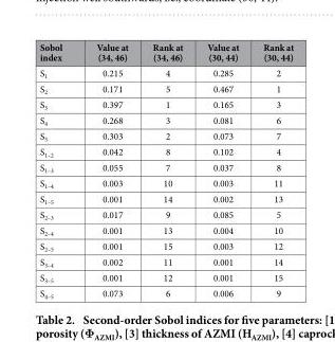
<table><thead><tr><td>Sobol index</td><td>Value at (34, 46)</td><td>Rank at (34, 46)</td><td>Value at (30, 44)</td><td>Rank at (30, 44)</td></tr></thead><tbody><tr><td>S<sub>1</sub></td><td>0.215</td><td>4</td><td>0.285</td><td>2</td></tr><tr><td>S<sub>2</sub></td><td>0.171</td><td>5</td><td>0.467</td><td>1</td></tr><tr><td>S<sub>3</sub></td><td>0.397</td><td>1</td><td>0.165</td><td>3</td></tr><tr><td>S<sub>4</sub></td><td>0.268</td><td>3</td><td>0.081</td><td>6</td></tr><tr><td>S<sub>5</sub></td><td>0.303</td><td>2</td><td>0.073</td><td>7</td></tr><tr><td>S<sub>1–2</sub></td><td>0.042</td><td>8</td><td>0.102</td><td>4</td></tr><tr><td>S<sub>1–3</sub></td><td>0.055</td><td>7</td><td>0.037</td><td>8</td></tr><tr><td>S<sub>1–4</sub></td><td>0.003</td><td>10</td><td>0.003</td><td>11</td></tr><tr><td>S<sub>1–5</sub></td><td>0.001</td><td>14</td><td>0.002</td><td>13</td></tr><tr><td>S<sub>2–3</sub></td><td>0.017</td><td>9</td><td>0.085</td><td>5</td></tr><tr><td>S<sub>2–4</sub></td><td>0.001</td><td>13</td><td>0.004</td><td>10</td></tr><tr><td>S<sub>2–5</sub></td><td>0.001</td><td>15</td><td>0.003</td><td>12</td></tr><tr><td>S<sub>3–4</sub></td><td>0.002</td><td>11</td><td>0.001</td><td>14</td></tr><tr><td>S<sub>3–5</sub></td><td>0.001</td><td>12</td><td>0.001</td><td>15</td></tr><tr><td>S<sub>4–5</sub></td><td>0.073</td><td>6</td><td>0.006</td><td>9</td></tr></tbody></table>